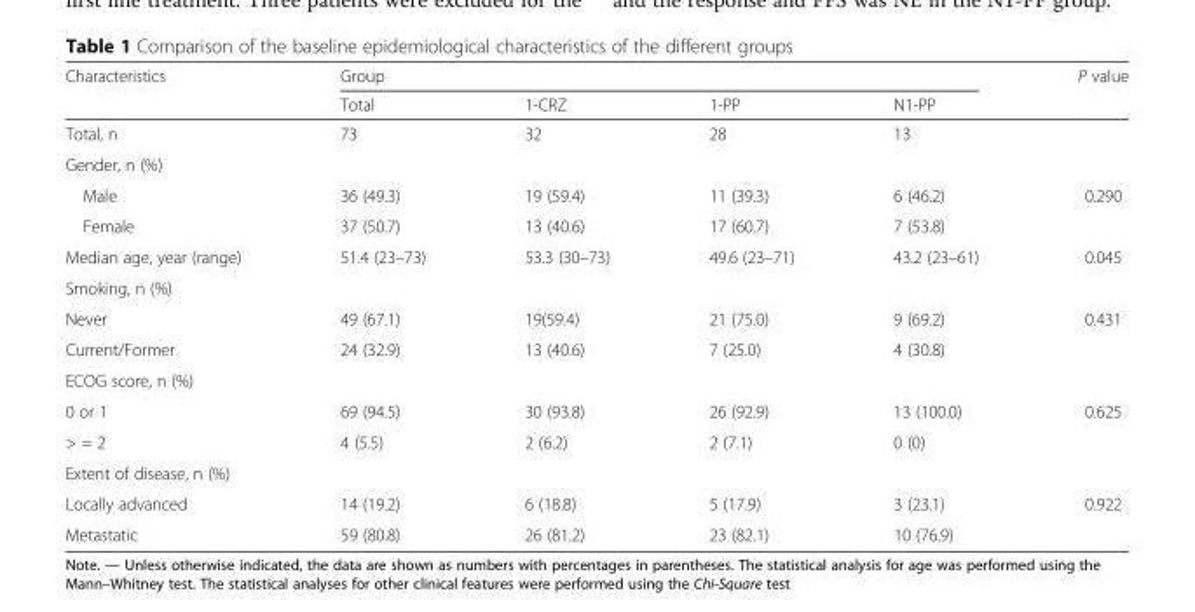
<table><thead><tr><td rowspan="2">Characteristics</td><td colspan="4">Group</td><td rowspan="2">P value</td></tr><tr><td>Total</td><td>1-CRZ</td><td>1-PP</td><td>N1-PP</td></tr></thead><tbody><tr><td>Total, n</td><td>73</td><td>32</td><td>28</td><td>13</td><td></td></tr><tr><td colspan="6">Gender, n (%)</td></tr><tr><td>Male</td><td>36 (49.3)</td><td>19 (59.4)</td><td>11 (39.3)</td><td>6 (46.2)</td><td>0.290</td></tr><tr><td>Female</td><td>37 (50.7)</td><td>13 (40.6)</td><td>17 (60.7)</td><td>7 (53.8)</td><td></td></tr><tr><td>Median age, year (range)</td><td>51.4 (23–73)</td><td>53.3 (30–73)</td><td>49.6 (23–71)</td><td>43.2 (23–61)</td><td>0.045</td></tr><tr><td colspan="6">Smoking, n (%)</td></tr><tr><td>Never</td><td>49 (67.1)</td><td>19(59.4)</td><td>21 (75.0)</td><td>9 (69.2)</td><td>0.431</td></tr><tr><td>Current/Former</td><td>24 (32.9)</td><td>13 (40.6)</td><td>7 (25.0)</td><td>4 (30.8)</td><td></td></tr><tr><td colspan="6">ECOG score, n (%)</td></tr><tr><td>0 or 1</td><td>69 (94.5)</td><td>30 (93.8)</td><td>26 (92.9)</td><td>13 (100.0)</td><td>0.625</td></tr><tr><td>&gt; = 2</td><td>4 (5.5)</td><td>2 (6.2)</td><td>2 (7.1)</td><td>0 (0)</td><td></td></tr><tr><td colspan="6">Extent of disease, n (%)</td></tr><tr><td>Locally advanced</td><td>14 (19.2)</td><td>6 (18.8)</td><td>5 (17.9)</td><td>3 (23.1)</td><td>0.922</td></tr><tr><td>Metastatic</td><td>59 (80.8)</td><td>26 (81.2)</td><td>23 (82.1)</td><td>10 (76.9)</td><td></td></tr></tbody></table>